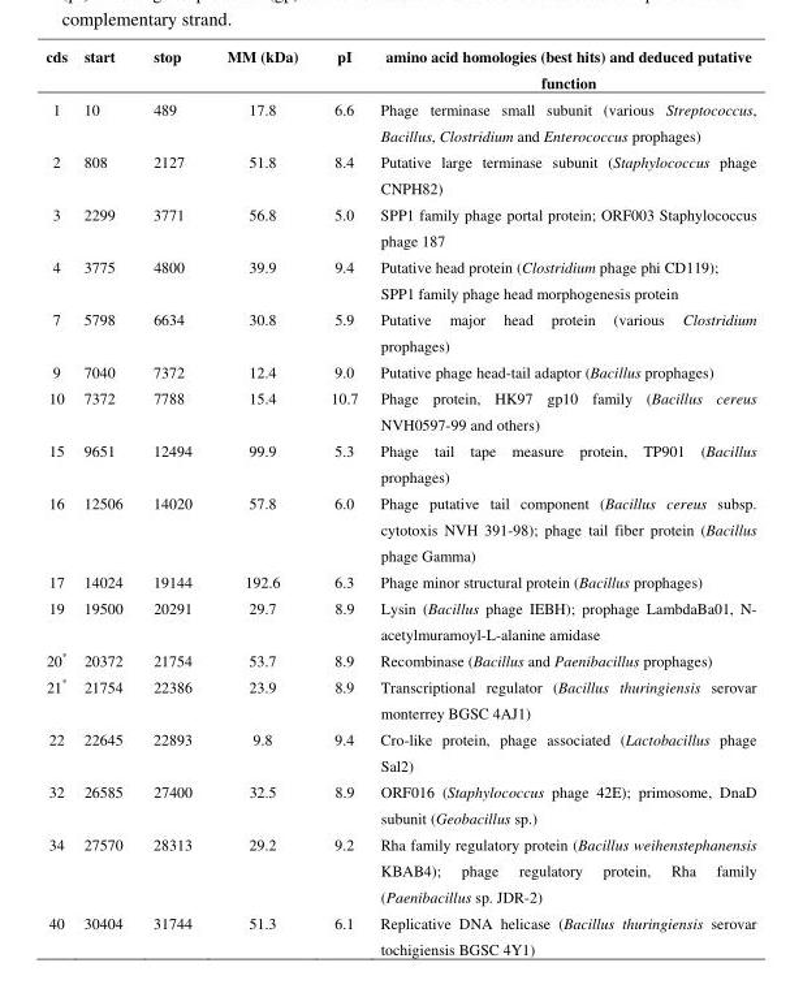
<table><thead><tr><td>cds</td><td>start</td><td>stop</td><td>MM (kDa)</td><td>pI</td><td>amino acid homologies (best hits) and deduced putative function</td></tr></thead><tbody><tr><td>1</td><td>10</td><td>489</td><td>17.8</td><td>6.6</td><td>Phage terminase small subunit (various Streptococcus, Bacillus, Clostridium and Enterococcus prophages)</td></tr><tr><td>2</td><td>808</td><td>2127</td><td>51.8</td><td>8.4</td><td>Putative large terminase subunit (Staphylococcus phage CNPH82)</td></tr><tr><td>3</td><td>2299</td><td>3771</td><td>56.8</td><td>5.0</td><td>SPP1 family phage portal protein; ORF003 Staphylococcus phage 187</td></tr><tr><td>4</td><td>3775</td><td>4800</td><td>39.9</td><td>9.4</td><td>Putative head protein (Clostridium phage phi CD119); SPP1 family phage head morphogenesis protein</td></tr><tr><td>7</td><td>5798</td><td>6634</td><td>30.8</td><td>5.9</td><td>Putative major head protein (various Clostridium prophages)</td></tr><tr><td>9</td><td>7040</td><td>7372</td><td>12.4</td><td>9.0</td><td>Putative phage head-tail adaptor (Bacillus prophages)</td></tr><tr><td>10</td><td>7372</td><td>7788</td><td>15.4</td><td>10.7</td><td>Phage protein, HK97 gp10 family (Bacillus cereus NVH0597-99 and others)</td></tr><tr><td>15</td><td>9651</td><td>12494</td><td>99.9</td><td>5.3</td><td>Phage tail tape measure protein, TP901 (Bacillus prophages)</td></tr><tr><td>16</td><td>12506</td><td>14020</td><td>57.8</td><td>6.0</td><td>Phage putative tail component (Bacillus cereus subsp. cytotoxis NVH 391-98); phage tail fiber protein (Bacillus phage Gamma)</td></tr><tr><td>17</td><td>14024</td><td>19144</td><td>192.6</td><td>6.3</td><td>Phage minor structural protein (Bacillus prophages)</td></tr><tr><td>19</td><td>19500</td><td>20291</td><td>29.7</td><td>8.9</td><td>Lysin (Bacillus phage IEBH); prophage LambdaBa01, N- acetylmuramoyl-L-alanine amidase</td></tr><tr><td>20*</td><td>20372</td><td>21754</td><td>53.7</td><td>8.9</td><td>Recombinase (Bacillus and Paenibacillus prophages)</td></tr><tr><td>21*</td><td>21754</td><td>22386</td><td>23.9</td><td>8.9</td><td>Transcriptional regulator (Bacillus thuringiensis serovar monterrey BGSC 4AJ1)</td></tr><tr><td>22</td><td>22645</td><td>22893</td><td>9.8</td><td>9.4</td><td>Cro-like protein, phage associated (Lactobacillus phage Sal2)</td></tr><tr><td>32</td><td>26585</td><td>27400</td><td>32.5</td><td>8.9</td><td>ORF016 (Staphylococcus phage 42E); primosome, DnaD subunit (Geobacillus sp.)</td></tr><tr><td>34</td><td>27570</td><td>28313</td><td>29.2</td><td>9.2</td><td>Rha family regulatory protein (Bacillus weihenstephanensis KBAB4); phage regulatory protein, Rha family (Paenibacillus sp. JDR-2)</td></tr><tr><td>40</td><td>30404</td><td>31744</td><td>51.3</td><td>6.1</td><td>Replicative DNA helicase (Bacillus thuringiensis serovar tochigiensis BGSC 4Y1)</td></tr></tbody></table>